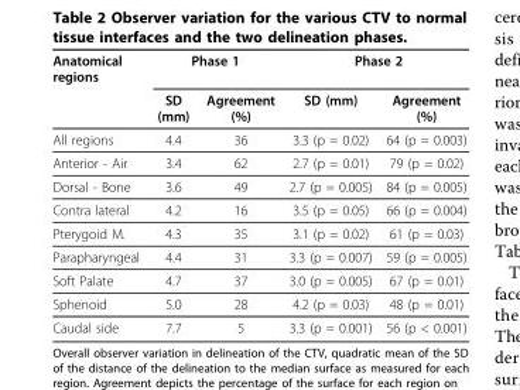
<table><thead><tr><td rowspan="2">Anatomical regions</td><td colspan="2">Phase 1</td><td colspan="2">Phase 2</td></tr><tr><td>SD (mm)</td><td>Agreement (%)</td><td>SD (mm)</td><td>Agreement (%)</td></tr></thead><tbody><tr><td>All regions</td><td>4.4</td><td>36</td><td>3.3 (p = 0.02)</td><td>64 (p = 0.003)</td></tr><tr><td>Anterior - Air</td><td>3.4</td><td>62</td><td>2.7 (p = 0.01)</td><td>79 (p = 0.02)</td></tr><tr><td>Dorsal - Bone</td><td>3.6</td><td>49</td><td>2.7 (p = 0.005)</td><td>84 (p = 0.005)</td></tr><tr><td>Contra lateral</td><td>4.2</td><td>16</td><td>3.5 (p = 0.05)</td><td>66 (p = 0.004)</td></tr><tr><td>Pterygoid M.</td><td>4.3</td><td>35</td><td>3.1 (p = 0.02)</td><td>61 (p = 0.03)</td></tr><tr><td>Parapharyngeal</td><td>4.4</td><td>31</td><td>3.3 (p = 0.007)</td><td>59 (p = 0.005)</td></tr><tr><td>Soft Palate</td><td>4.7</td><td>37</td><td>3.0 (p = 0.005)</td><td>67 (p = 0.01)</td></tr><tr><td>Sphenoid</td><td>5.0</td><td>28</td><td>4.2 (p = 0.03)</td><td>48 (p = 0.01)</td></tr><tr><td>Caudal side</td><td>7.7</td><td>5</td><td>3.3 (p = 0.001)</td><td>56 (p &lt; 0.001)</td></tr></tbody></table>